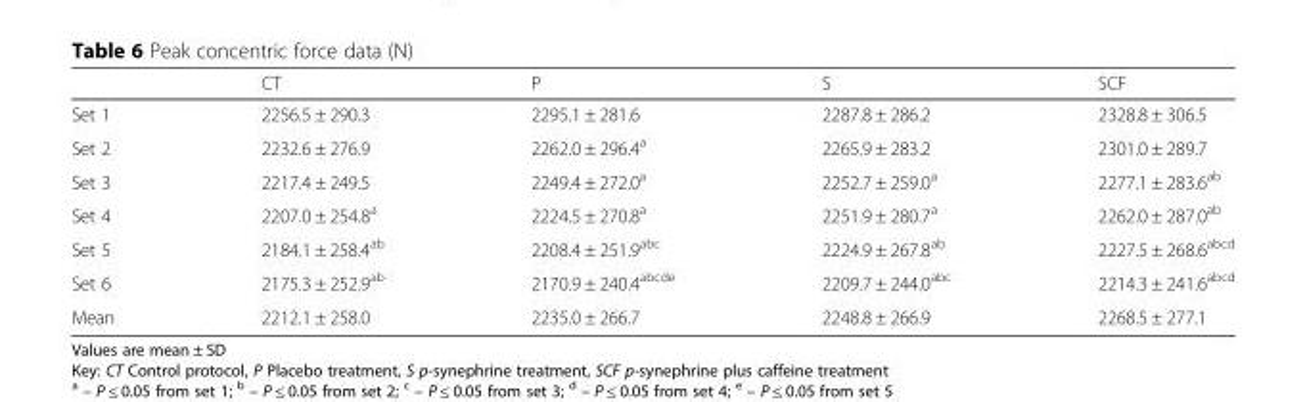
<table><thead><tr><td></td><td>CT</td><td>P</td><td>S</td><td>SCF</td></tr></thead><tbody><tr><td>Set 1</td><td>2256.5 ± 290.3</td><td>2295.1 ± 281.6</td><td>2287.8 ± 286.2</td><td>2328.8 ± 306.5</td></tr><tr><td>Set 2</td><td>2232.6 ± 276.9</td><td>2262.0 ± 296.4<sup>a</sup></td><td>2265.9 ± 283.2</td><td>2301.0 ± 289.7</td></tr><tr><td>Set 3</td><td>2217.4 ± 249.5</td><td>2249.4 ± 272.0<sup>a</sup></td><td>2252.7 ± 259.0<sup>a</sup></td><td>2277.1 ± 283.6<sup>ab</sup></td></tr><tr><td>Set 4</td><td>2207.0 ± 254.8<sup>a</sup></td><td>2224.5 ± 270.8<sup>a</sup></td><td>2251.9 ± 280.7<sup>a</sup></td><td>2262.0 ± 287.0<sup>ab</sup></td></tr><tr><td>Set 5</td><td>2184.1 ± 258.4<sup>ab</sup></td><td>2208.4 ± 251.9<sup>abc</sup></td><td>2224.9 ± 267.8<sup>ab</sup></td><td>2227.5 ± 268.6<sup>abcd</sup></td></tr><tr><td>Set 6</td><td>2175.3 ± 252.9<sup>ab</sup></td><td>2170.9 ± 240.4<sup>abcde</sup></td><td>2209.7 ± 244.0<sup>abc</sup></td><td>2214.3 ± 241.6<sup>abcd</sup></td></tr><tr><td>Mean</td><td>2212.1 ± 258.0</td><td>2235.0 ± 266.7</td><td>2248.8 ± 266.9</td><td>2268.5 ± 277.1</td></tr></tbody></table>